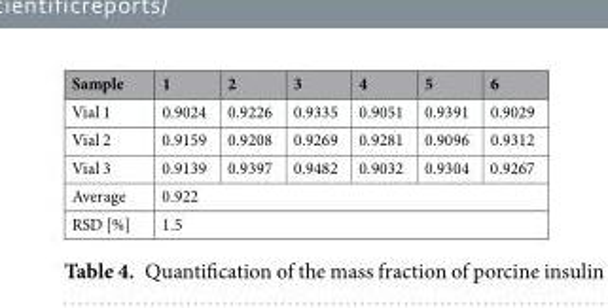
<table><thead><tr><td>Sample</td><td>1</td><td>2</td><td>3</td><td>4</td><td>5</td><td>6</td></tr></thead><tbody><tr><td>Vial 1</td><td>0.9024</td><td>0.9226</td><td>0.9335</td><td>0.9051</td><td>0.9391</td><td>0.9029</td></tr><tr><td>Vial 2</td><td>0.9159</td><td>0.9208</td><td>0.9269</td><td>0.9281</td><td>0.9096</td><td>0.9312</td></tr><tr><td>Vial 3</td><td>0.9139</td><td>0.9397</td><td>0.9482</td><td>0.9032</td><td>0.9304</td><td>0.9267</td></tr><tr><td>Average</td><td colspan="6">0.922</td></tr><tr><td>RSD [%]</td><td colspan="6">1.5</td></tr></tbody></table>